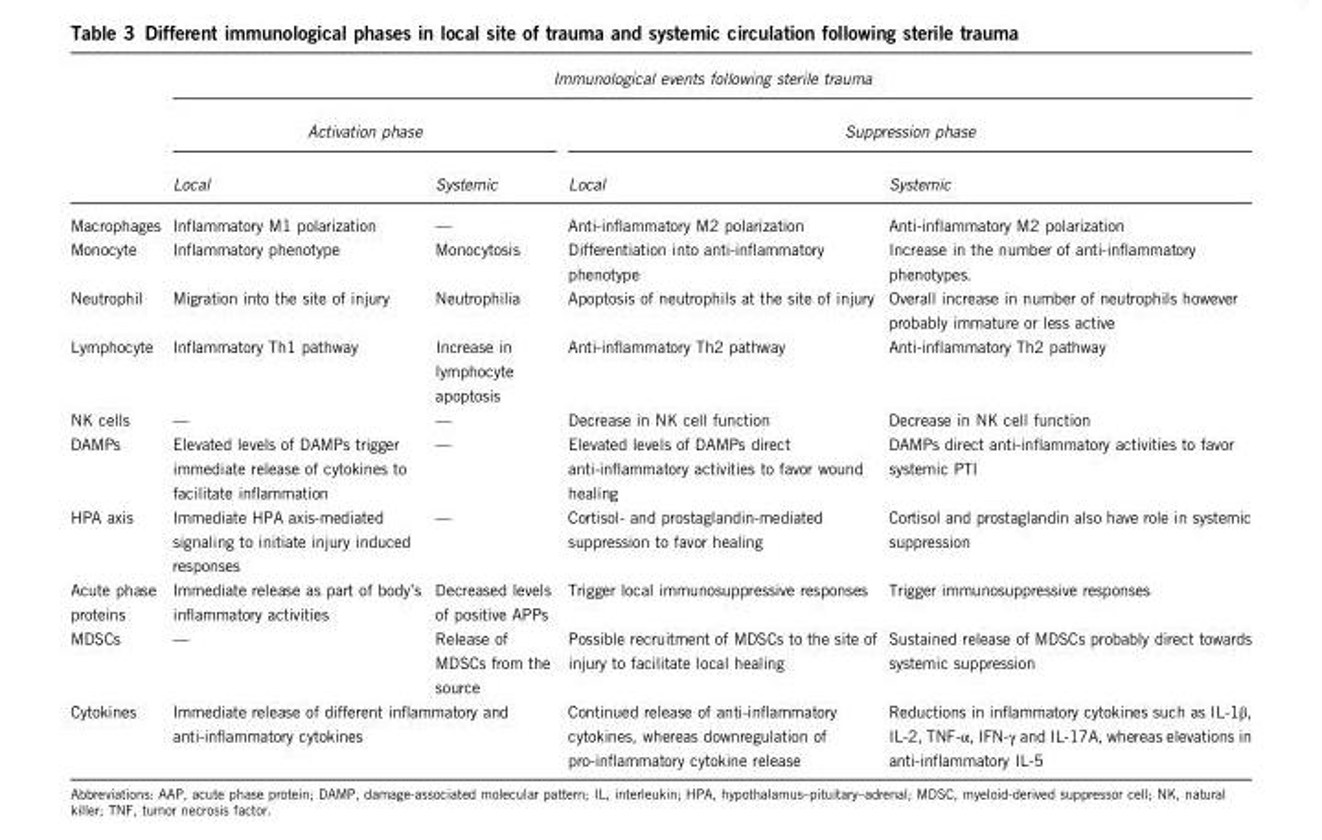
<table><thead><tr><td rowspan="3"></td><td colspan="4">Immunological events following sterile trauma</td></tr><tr><td colspan="2">Activation phase</td><td colspan="2">Suppression phase</td></tr><tr><td>Local</td><td>Systemic</td><td>Local</td><td>Systemic</td></tr></thead><tbody><tr><td>Macrophages</td><td>Inflammatory M1 polarization</td><td>—</td><td>Anti-inflammatory M2 polarization</td><td>Anti-inflammatory M2 polarization</td></tr><tr><td>Monocyte</td><td>Inflammatory phenotype</td><td>Monocytosis</td><td>Differentiation into anti-inflammatory phenotype</td><td>Increase in the number of anti-inflammatory phenotypes.</td></tr><tr><td>Neutrophil</td><td>Migration into the site of injury</td><td>Neutrophilia</td><td>Apoptosis of neutrophils at the site of injury</td><td>Overall increase in number of neutrophils however probably immature or less active</td></tr><tr><td>Lymphocyte</td><td>Inflammatory Th1 pathway</td><td>Increase in lymphocyte apoptosis</td><td>Anti-inflammatory Th2 pathway</td><td>Anti-inflammatory Th2 pathway</td></tr><tr><td>NK cells</td><td>—</td><td>—</td><td>Decrease in NK cell function</td><td>Decrease in NK cell function</td></tr><tr><td>DAMPs</td><td>Elevated levels of DAMPs trigger immediate release of cytokines to facilitate inflammation</td><td>—</td><td>Elevated levels of DAMPs direct anti-inflammatory activities to favor wound healing</td><td>DAMPs direct anti-inflammatory activities to favor systemic PTI</td></tr><tr><td>HPA axis</td><td>Immediate HPA axis-mediated signaling to initiate injury induced responses</td><td>—</td><td>Cortisol- and prostaglandin-mediated suppression to favor healing</td><td>Cortisol and prostaglandin also have role in systemic suppression</td></tr><tr><td>Acute phase proteins</td><td>Immediate release as part of body’s inflammatory activities</td><td>Decreased levels of positive APPs</td><td>Trigger local immunosuppressive responses</td><td>Trigger immunosuppressive responses</td></tr><tr><td>MDSCs</td><td>—</td><td>Release of MDSCs from the source</td><td>Possible recruitment of MDSCs to the site of injury to facilitate local healing</td><td>Sustained release of MDSCs probably direct towards systemic suppression</td></tr><tr><td>Cytokines</td><td colspan="2">Immediate release of different inflammatory and anti-inflammatory cytokines</td><td>Continued release of anti-inflammatory cytokines, whereas downregulation of pro-inflammatory cytokine release</td><td>Reductions in inflammatory cytokines such as IL-1β, IL-2, TNF-α, IFN-γ and IL-17A, whereas elevations in anti-inflammatory IL-5</td></tr></tbody></table>